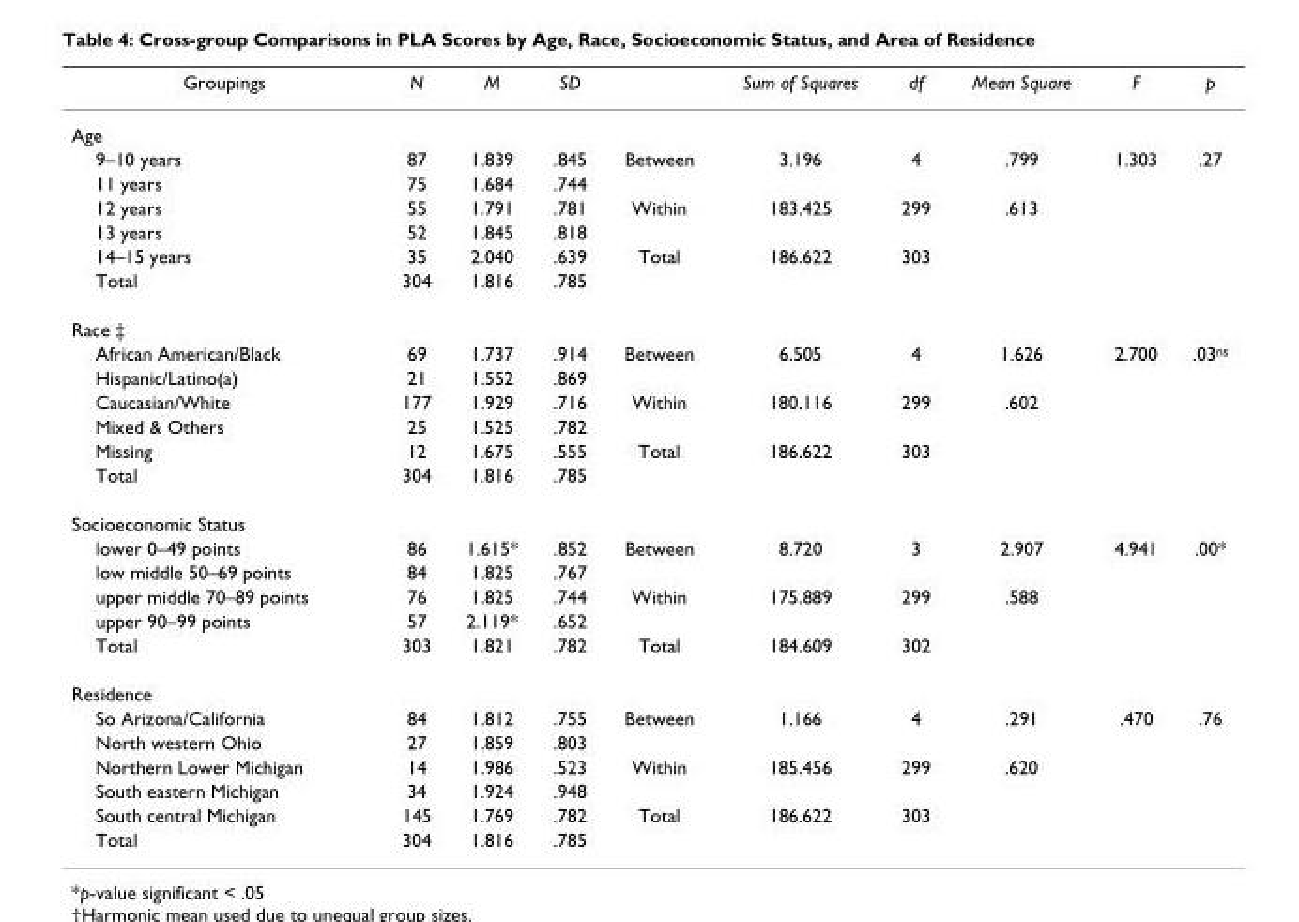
<table><thead><tr><td>Groupings</td><td>N</td><td>M</td><td>SD</td><td></td><td>Sum of Squares</td><td>df</td><td>Mean Square</td><td>F</td><td>p</td></tr></thead><tbody><tr><td colspan="10">Age</td></tr><tr><td>9–10 years</td><td>87</td><td>1.839</td><td>.845</td><td>Between</td><td>3.196</td><td>4</td><td>.799</td><td>1.303</td><td>.27</td></tr><tr><td>11 years</td><td>75</td><td>1.684</td><td>.744</td><td></td><td></td><td></td><td></td><td></td><td></td></tr><tr><td>12 years</td><td>55</td><td>1.791</td><td>.781</td><td>Within</td><td>183.425</td><td>299</td><td>.613</td><td></td><td></td></tr><tr><td>13 years</td><td>52</td><td>1.845</td><td>.818</td><td></td><td></td><td></td><td></td><td></td><td></td></tr><tr><td>14–15 years</td><td>35</td><td>2.040</td><td>.639</td><td>Total</td><td>186.622</td><td>303</td><td></td><td></td><td></td></tr><tr><td>Total</td><td>304</td><td>1.816</td><td>.785</td><td></td><td></td><td></td><td></td><td></td><td></td></tr><tr><td colspan="10">Race ‡</td></tr><tr><td>African American/Black</td><td>69</td><td>1.737</td><td>.914</td><td>Between</td><td>6.505</td><td>4</td><td>1.626</td><td>2.700</td><td>.03<sup>ns</sup></td></tr><tr><td>Hispanic/Latino(a)</td><td>21</td><td>1.552</td><td>.869</td><td></td><td></td><td></td><td></td><td></td><td></td></tr><tr><td>Caucasian/White</td><td>177</td><td>1.929</td><td>.716</td><td>Within</td><td>180.116</td><td>299</td><td>.602</td><td></td><td></td></tr><tr><td>Mixed &amp; Others</td><td>25</td><td>1.525</td><td>.782</td><td></td><td></td><td></td><td></td><td></td><td></td></tr><tr><td>Missing</td><td>12</td><td>1.675</td><td>.555</td><td>Total</td><td>186.622</td><td>303</td><td></td><td></td><td></td></tr><tr><td>Total</td><td>304</td><td>1.816</td><td>.785</td><td></td><td></td><td></td><td></td><td></td><td></td></tr><tr><td colspan="10">Socioeconomic Status</td></tr><tr><td>lower 0–49 points</td><td>86</td><td>1.615*</td><td>.852</td><td>Between</td><td>8.720</td><td>3</td><td>2.907</td><td>4.941</td><td>.00*</td></tr><tr><td>low middle 50–69 points</td><td>84</td><td>1.825</td><td>.767</td><td></td><td></td><td></td><td></td><td></td><td></td></tr><tr><td>upper middle 70–89 points</td><td>76</td><td>1.825</td><td>.744</td><td>Within</td><td>175.889</td><td>299</td><td>.588</td><td></td><td></td></tr><tr><td>upper 90–99 points</td><td>57</td><td>2.119*</td><td>.652</td><td></td><td></td><td></td><td></td><td></td><td></td></tr><tr><td>Total</td><td>303</td><td>1.821</td><td>.782</td><td>Total</td><td>184.609</td><td>302</td><td></td><td></td><td></td></tr><tr><td colspan="10">Residence</td></tr><tr><td>So Arizona/California</td><td>84</td><td>1.812</td><td>.755</td><td>Between</td><td>1.166</td><td>4</td><td>.291</td><td>.470</td><td>.76</td></tr><tr><td>North western Ohio</td><td>27</td><td>1.859</td><td>.803</td><td></td><td></td><td></td><td></td><td></td><td></td></tr><tr><td>Northern Lower Michigan</td><td>14</td><td>1.986</td><td>.523</td><td>Within</td><td>185.456</td><td>299</td><td>.620</td><td></td><td></td></tr><tr><td>South eastern Michigan</td><td>34</td><td>1.924</td><td>.948</td><td></td><td></td><td></td><td></td><td></td><td></td></tr><tr><td>South central Michigan</td><td>145</td><td>1.769</td><td>.782</td><td>Total</td><td>186.622</td><td>303</td><td></td><td></td><td></td></tr><tr><td>Total</td><td>304</td><td>1.816</td><td>.785</td><td></td><td></td><td></td><td></td><td></td><td></td></tr></tbody></table>